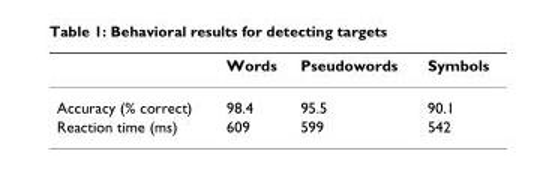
<table><thead><tr><td></td><td>Words</td><td>Pseudowords</td><td>Symbols</td></tr></thead><tbody><tr><td>Accuracy (% correct)</td><td>98.4</td><td>95.5</td><td>90.1</td></tr><tr><td>Reaction time (ms)</td><td>609</td><td>599</td><td>542</td></tr></tbody></table>